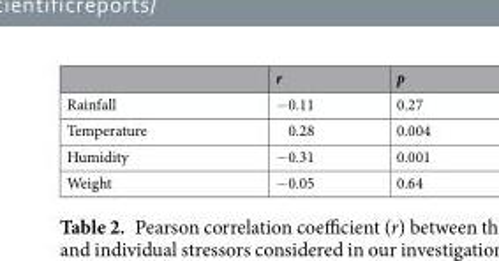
<table><thead><tr><td></td><td>r</td><td>p</td></tr></thead><tbody><tr><td>Rainfall</td><td>−0.11</td><td>0.27</td></tr><tr><td>Temperature</td><td>0.28</td><td>0.004</td></tr><tr><td>Humidity</td><td>−0.31</td><td>0.001</td></tr><tr><td>Weight</td><td>−0.05</td><td>0.64</td></tr></tbody></table>